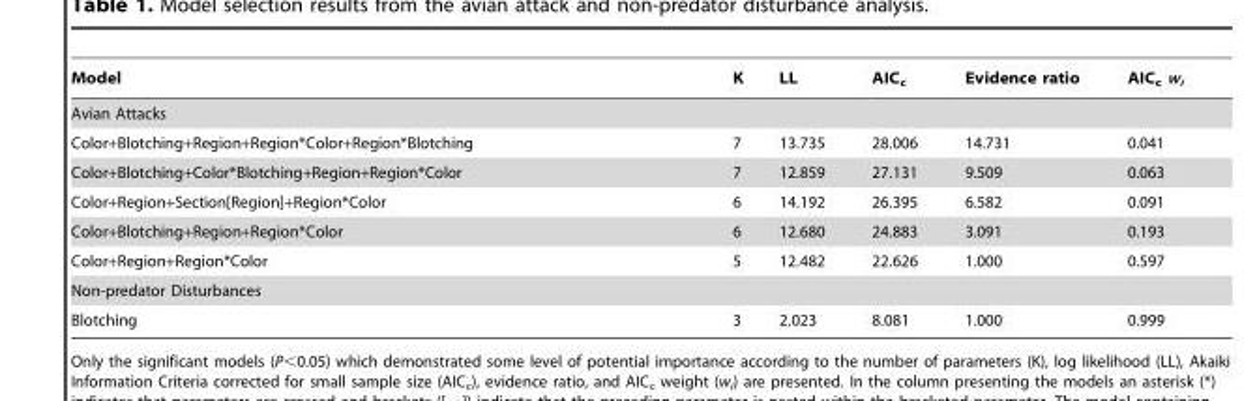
<table><thead><tr><td>Model</td><td>K</td><td>LL</td><td>AIC<sub>c</sub></td><td>Evidence ratio</td><td>AIC<sub>c</sub> w<sub>i</sub></td></tr></thead><tbody><tr><td colspan="6">Avian Attacks</td></tr><tr><td>Color+Blotching+Region+Region*Color+Region*Blotching</td><td>7</td><td>13.735</td><td>28.006</td><td>14.731</td><td>0.041</td></tr><tr><td>Color+Blotching+Color*Blotching+Region+Region*Color</td><td>7</td><td>12.859</td><td>27.131</td><td>9.509</td><td>0.063</td></tr><tr><td>Color+Region+Section[Region]+Region*Color</td><td>6</td><td>14.192</td><td>26.395</td><td>6.582</td><td>0.091</td></tr><tr><td>Color+Blotching+Region+Region*Color</td><td>6</td><td>12.680</td><td>24.883</td><td>3.091</td><td>0.193</td></tr><tr><td>Color+Region+Region*Color</td><td>5</td><td>12.482</td><td>22.626</td><td>1.000</td><td>0.597</td></tr><tr><td colspan="6">Non-predator Disturbances</td></tr><tr><td>Blotching</td><td>3</td><td>2.023</td><td>8.081</td><td>1.000</td><td>0.999</td></tr></tbody></table>